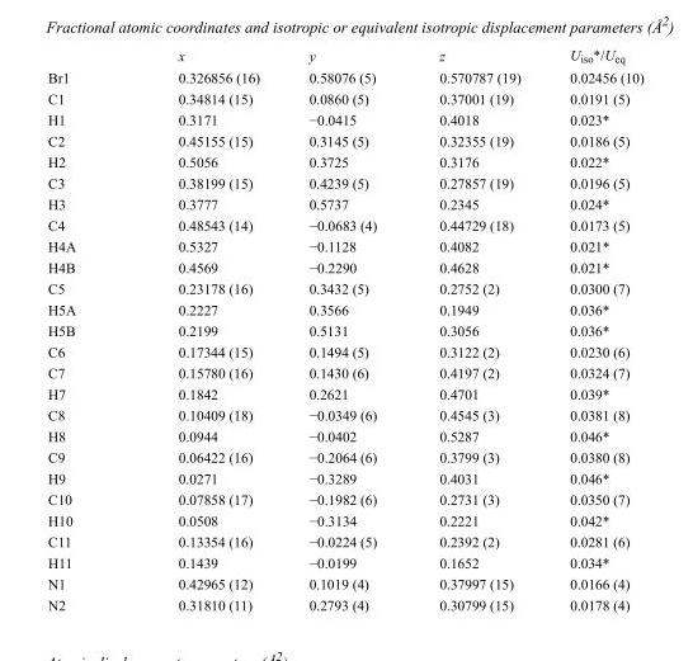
<table><thead><tr><td></td><td>x</td><td>y</td><td>z</td><td>U<sub>iso</sub>*/U<sub>eq</sub></td></tr></thead><tbody><tr><td>Br1</td><td>0.326856 (16)</td><td>0.58076 (5)</td><td>0.570787 (19)</td><td>0.02456 (10)</td></tr><tr><td>C1</td><td>0.34814 (15)</td><td>0.0860 (5)</td><td>0.37001 (19)</td><td>0.0191 (5)</td></tr><tr><td>H1</td><td>0.3171</td><td>−0.0415</td><td>0.4018</td><td>0.023*</td></tr><tr><td>C2</td><td>0.45155 (15)</td><td>0.3145 (5)</td><td>0.32355 (19)</td><td>0.0186 (5)</td></tr><tr><td>H2</td><td>0.5056</td><td>0.3725</td><td>0.3176</td><td>0.022*</td></tr><tr><td>C3</td><td>0.38199 (15)</td><td>0.4239 (5)</td><td>0.27857 (19)</td><td>0.0196 (5)</td></tr><tr><td>H3</td><td>0.3777</td><td>0.5737</td><td>0.2345</td><td>0.024*</td></tr><tr><td>C4</td><td>0.48543 (14)</td><td>−0.0683 (4)</td><td>0.44729 (18)</td><td>0.0173 (5)</td></tr><tr><td>H4A</td><td>0.5327</td><td>−0.1128</td><td>0.4082</td><td>0.021*</td></tr><tr><td>H4B</td><td>0.4569</td><td>−0.2290</td><td>0.4628</td><td>0.021*</td></tr><tr><td>C5</td><td>0.23178 (16)</td><td>0.3432 (5)</td><td>0.2752 (2)</td><td>0.0300 (7)</td></tr><tr><td>H5A</td><td>0.2227</td><td>0.3566</td><td>0.1949</td><td>0.036*</td></tr><tr><td>H5B</td><td>0.2199</td><td>0.5131</td><td>0.3056</td><td>0.036*</td></tr><tr><td>C6</td><td>0.17344 (15)</td><td>0.1494 (5)</td><td>0.3122 (2)</td><td>0.0230 (6)</td></tr><tr><td>C7</td><td>0.15780 (16)</td><td>0.1430 (6)</td><td>0.4197 (2)</td><td>0.0324 (7)</td></tr><tr><td>H7</td><td>0.1842</td><td>0.2621</td><td>0.4701</td><td>0.039*</td></tr><tr><td>C8</td><td>0.10409 (18)</td><td>−0.0349 (6)</td><td>0.4545 (3)</td><td>0.0381 (8)</td></tr><tr><td>H8</td><td>0.0944</td><td>−0.0402</td><td>0.5287</td><td>0.046*</td></tr><tr><td>C9</td><td>0.06422 (16)</td><td>−0.2064 (6)</td><td>0.3799 (3)</td><td>0.0380 (8)</td></tr><tr><td>H9</td><td>0.0271</td><td>−0.3289</td><td>0.4031</td><td>0.046*</td></tr><tr><td>C10</td><td>0.07858 (17)</td><td>−0.1982 (6)</td><td>0.2731 (3)</td><td>0.0350 (7)</td></tr><tr><td>H10</td><td>0.0508</td><td>−0.3134</td><td>0.2221</td><td>0.042*</td></tr><tr><td>C11</td><td>0.13354 (16)</td><td>−0.0224 (5)</td><td>0.2392 (2)</td><td>0.0281 (6)</td></tr><tr><td>H11</td><td>0.1439</td><td>−0.0199</td><td>0.1652</td><td>0.034*</td></tr><tr><td>N1</td><td>0.42965 (12)</td><td>0.1019 (4)</td><td>0.37997 (15)</td><td>0.0166 (4)</td></tr><tr><td>N2</td><td>0.31810 (11)</td><td>0.2793 (4)</td><td>0.30799 (15)</td><td>0.0178 (4)</td></tr></tbody></table>